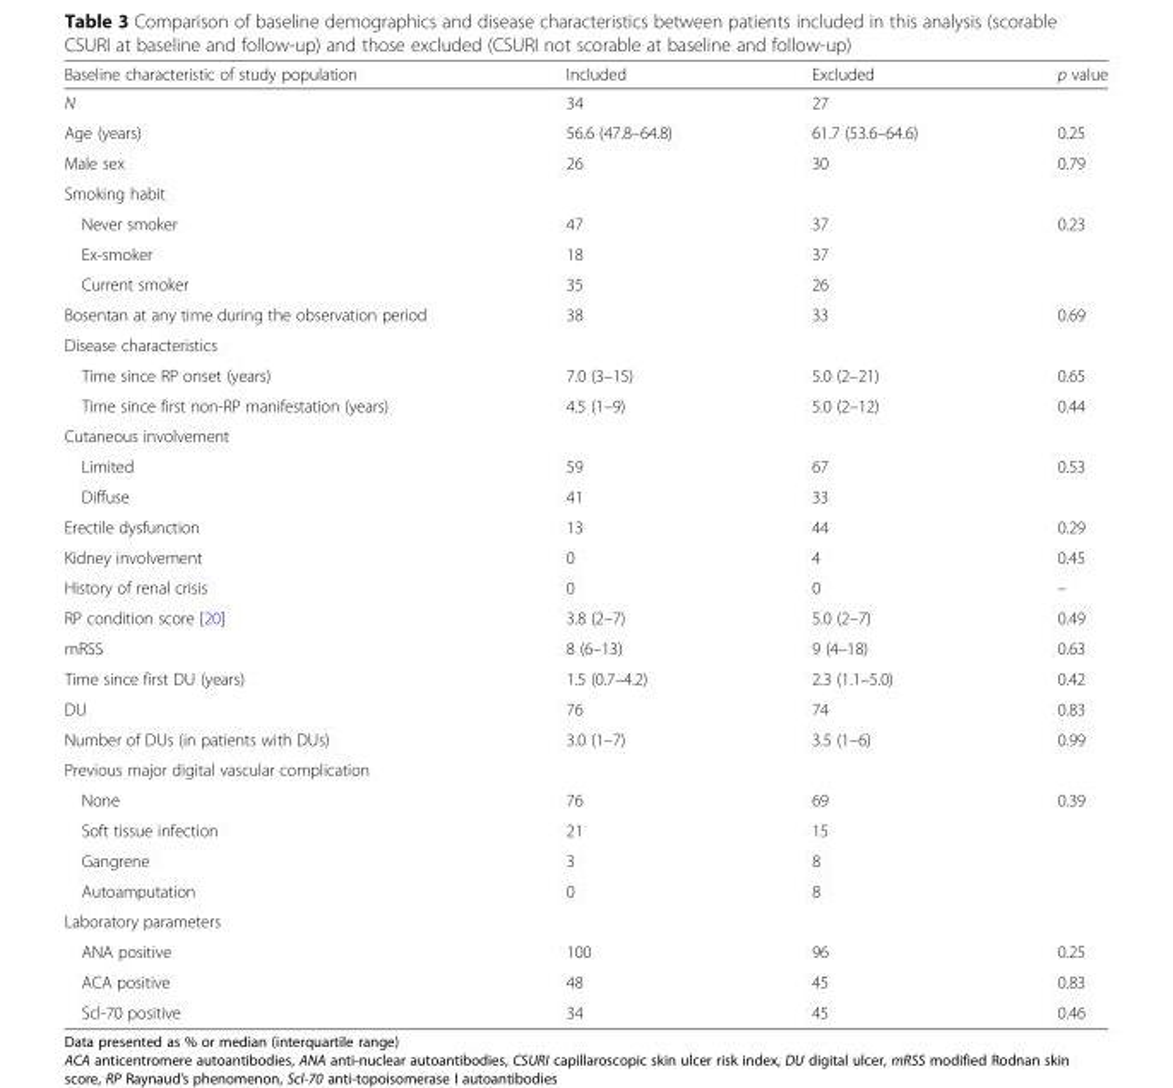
<table><thead><tr><td>Baseline characteristic of study population</td><td>Included</td><td>Excluded</td><td>p value</td></tr></thead><tbody><tr><td>N</td><td>34</td><td>27</td><td></td></tr><tr><td>Age (years)</td><td>56.6 (47.8–64.8)</td><td>61.7 (53.6–64.6)</td><td>0.25</td></tr><tr><td>Male sex</td><td>26</td><td>30</td><td>0.79</td></tr><tr><td colspan="4">Smoking habit</td></tr><tr><td>Never smoker</td><td>47</td><td>37</td><td rowspan="3">0.23</td></tr><tr><td>Ex-smoker</td><td>18</td><td>37</td></tr><tr><td>Current smoker</td><td>35</td><td>26</td></tr><tr><td>Bosentan at any time during the observation period</td><td>38</td><td>33</td><td>0.69</td></tr><tr><td colspan="4">Disease characteristics</td></tr><tr><td>Time since RP onset (years)</td><td>7.0 (3–15)</td><td>5.0 (2–21)</td><td>0.65</td></tr><tr><td>Time since first non-RP manifestation (years)</td><td>4.5 (1–9)</td><td>5.0 (2–12)</td><td>0.44</td></tr><tr><td colspan="4">Cutaneous involvement</td></tr><tr><td>Limited</td><td>59</td><td>67</td><td rowspan="2">0.53</td></tr><tr><td>Diffuse</td><td>41</td><td>33</td></tr><tr><td>Erectile dysfunction</td><td>13</td><td>44</td><td>0.29</td></tr><tr><td>Kidney involvement</td><td>0</td><td>4</td><td>0.45</td></tr><tr><td>History of renal crisis</td><td>0</td><td>0</td><td>–</td></tr><tr><td>RP condition score [20]</td><td>3.8 (2–7)</td><td>5.0 (2–7)</td><td>0.49</td></tr><tr><td>mRSS</td><td>8 (6–13)</td><td>9 (4–18)</td><td>0.63</td></tr><tr><td>Time since first DU (years)</td><td>1.5 (0.7–4.2)</td><td>2.3 (1.1–5.0)</td><td>0.42</td></tr><tr><td>DU</td><td>76</td><td>74</td><td>0.83</td></tr><tr><td>Number of DUs (in patients with DUs)</td><td>3.0 (1–7)</td><td>3.5 (1–6)</td><td>0.99</td></tr><tr><td colspan="4">Previous major digital vascular complication</td></tr><tr><td>None</td><td>76</td><td>69</td><td rowspan="4">0.39</td></tr><tr><td>Soft tissue infection</td><td>21</td><td>15</td></tr><tr><td>Gangrene</td><td>3</td><td>8</td></tr><tr><td>Autoamputation</td><td>0</td><td>8</td></tr><tr><td colspan="4">Laboratory parameters</td></tr><tr><td>ANA positive</td><td>100</td><td>96</td><td>0.25</td></tr><tr><td>ACA positive</td><td>48</td><td>45</td><td>0.83</td></tr><tr><td>Scl-70 positive</td><td>34</td><td>45</td><td>0.46</td></tr></tbody></table>